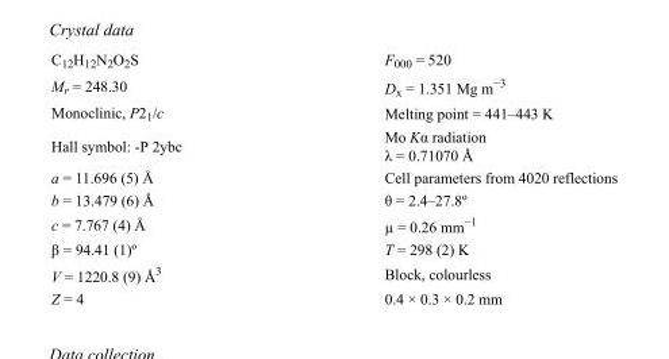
<table><tbody><tr><td>C<sub>12</sub>H<sub>12</sub>N<sub>2</sub>O<sub>2</sub>S</td><td>F000 = 520</td></tr><tr><td>M<sub>r</sub> = 248.30</td><td>D<sub>x</sub> = 1.351 Mg m<sup>−3</sup></td></tr><tr><td>Monoclinic, P2<sub>1</sub>/c</td><td>Melting point = 441–443 K</td></tr><tr><td>Hall symbol: -P 2ybc</td><td>Mo Kα radiation λ = 0.71070 Å</td></tr><tr><td>a = 11.696 (5) Å</td><td>Cell parameters from 4020 reflections</td></tr><tr><td>b = 13.479 (6) Å</td><td>θ = 2.4–27.8º</td></tr><tr><td>c = 7.767 (4) Å</td><td>µ = 0.26 mm<sup>−1</sup></td></tr><tr><td>β = 94.41 (1)º</td><td>T = 298 (2) K</td></tr><tr><td>V = 1220.8 (9) Å<sup>3</sup></td><td>Block, colourless</td></tr><tr><td>Z = 4</td><td>0.4 × 0.3 × 0.2 mm</td></tr></tbody></table>